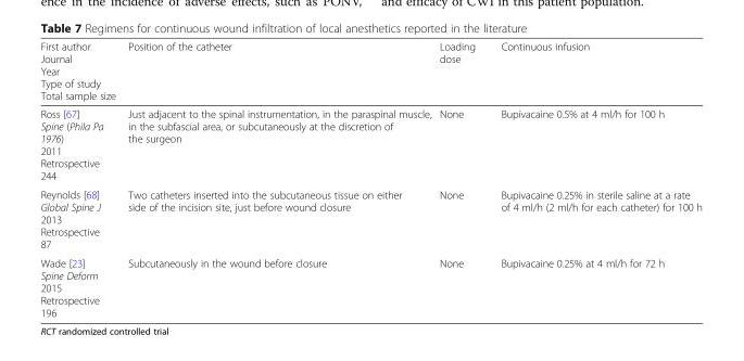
<table><thead><tr><td>First author Journal Year Type of study Total sample size</td><td>Position of the catheter</td><td>Loading dose</td><td>Continuous infusion</td></tr></thead><tbody><tr><td>Ross [67] Spine (Phila Pa 1976) 2011 Retrospective 244</td><td>Just adjacent to the spinal instrumentation, in the paraspinal muscle, in the subfascial area, or subcutaneously at the discretion of the surgeon</td><td>None</td><td>Bupivacaine 0.5% at 4 ml/h for 100 h</td></tr><tr><td>Reynolds [68] Global Spine J 2013 Retrospective 87</td><td>Two catheters inserted into the subcutaneous tissue on either side of the incision site, just before wound closure</td><td>None</td><td>Bupivacaine 0.25% in sterile saline at a rate of 4 ml/h (2 ml/h for each catheter) for 100 h</td></tr><tr><td>Wade [23] Spine Deform 2015 Retrospective 196</td><td>Subcutaneously in the wound before closure</td><td>None</td><td>Bupivacaine 0.25% at 4 ml/h for 72 h</td></tr></tbody></table>